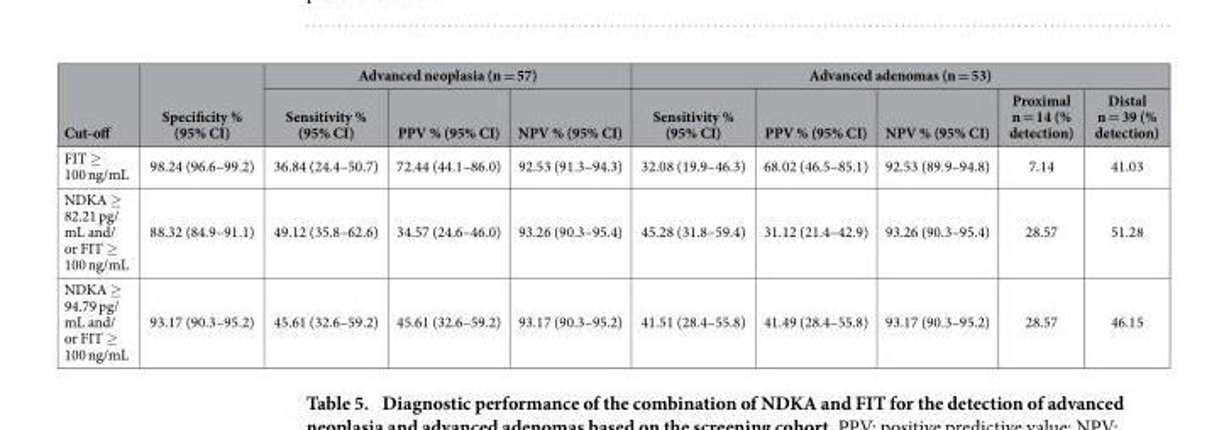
<table><thead><tr><td rowspan="2">Cut-off</td><td rowspan="2">Specificity % (95% CI)</td><td colspan="3">Advanced neoplasia (n = 57)</td><td colspan="5">Advanced adenomas (n = 53)</td></tr><tr><td>Sensitivity % (95% CI)</td><td>PPV % (95% CI)</td><td>NPV % (95% CI)</td><td>Sensitivity % (95% CI)</td><td>PPV % (95% CI)</td><td>NPV % (95% CI)</td><td>Proximal n = 14 (% detection)</td><td>Distal n = 39 (% detection)</td></tr></thead><tbody><tr><td>FIT ≥ 100 ng/mL</td><td>98.24 (96.6–99.2)</td><td>36.84 (24.4–50.7)</td><td>72.44 (44.1–86.0)</td><td>92.53 (91.3–94.3)</td><td>32.08 (19.9–46.3)</td><td>68.02 (46.5–85.1)</td><td>92.53 (89.9–94.8)</td><td>7.14</td><td>41.03</td></tr><tr><td>NDKA ≥ 82.21 pg/ mL and/ or FIT ≥ 100 ng/mL</td><td>88.32 (84.9–91.1)</td><td>49.12 (35.8–62.6)</td><td>34.57 (24.6–46.0)</td><td>93.26 (90.3–95.4)</td><td>45.28 (31.8–59.4)</td><td>31.12 (21.4–42.9)</td><td>93.26 (90.3–95.4)</td><td>28.57</td><td>51.28</td></tr><tr><td>NDKA ≥ 94.79 pg/ mL and/ or FIT ≥ 100 ng/mL</td><td>93.17 (90.3–95.2)</td><td>45.61 (32.6–59.2)</td><td>45.61 (32.6–59.2)</td><td>93.17 (90.3–95.2)</td><td>41.51 (28.4–55.8)</td><td>41.49 (28.4–55.8)</td><td>93.17 (90.3–95.2)</td><td>28.57</td><td>46.15</td></tr></tbody></table>